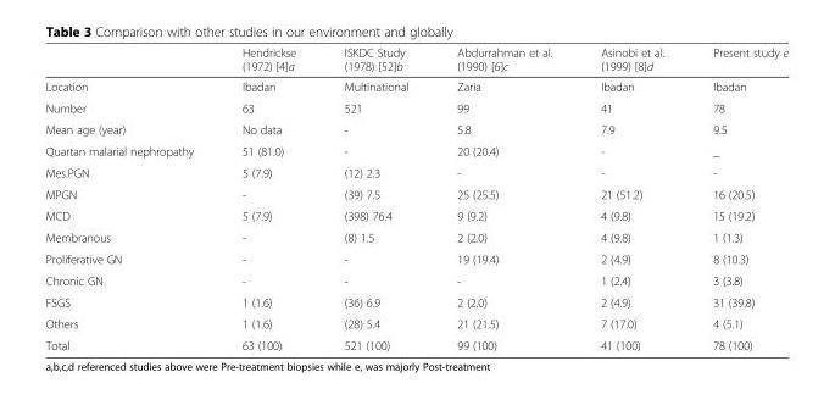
<table><thead><tr><td></td><td>Hendrickse (1972) [4]a</td><td>ISKDC Study (1978) [52]b</td><td>Abdurrahman et al. (1990) [6]c</td><td>Asinobi et al. (1999) [8]d</td><td>Present study e</td></tr></thead><tbody><tr><td>Location</td><td>Ibadan</td><td>Multinational</td><td>Zaria</td><td>Ibadan</td><td>Ibadan</td></tr><tr><td>Number</td><td>63</td><td>521</td><td>99</td><td>41</td><td>78</td></tr><tr><td>Mean age (year)</td><td>No data</td><td>-</td><td>5.8</td><td>7.9</td><td>9.5</td></tr><tr><td>Quartan malarial nephropathy</td><td>51 (81.0)</td><td>-</td><td>20 (20.4)</td><td>-</td><td>_</td></tr><tr><td>Mes.PGN</td><td>5 (7.9)</td><td>(12) 2.3</td><td>-</td><td>-</td><td>-</td></tr><tr><td>MPGN</td><td>-</td><td>(39) 7.5</td><td>25 (25.5)</td><td>21 (51.2)</td><td>16 (20.5)</td></tr><tr><td>MCD</td><td>5 (7.9)</td><td>(398) 76.4</td><td>9 (9.2)</td><td>4 (9.8)</td><td>15 (19.2)</td></tr><tr><td>Membranous</td><td>-</td><td>(8) 1.5</td><td>2 (2.0)</td><td>4 (9.8)</td><td>1 (1.3)</td></tr><tr><td>Proliferative GN</td><td>-</td><td>-</td><td>19 (19.4)</td><td>2 (4.9)</td><td>8 (10.3)</td></tr><tr><td>Chronic GN</td><td>-</td><td>-</td><td>-</td><td>1 (2.4)</td><td>3 (3.8)</td></tr><tr><td>FSGS</td><td>1 (1.6)</td><td>(36) 6.9</td><td>2 (2.0)</td><td>2 (4.9)</td><td>31 (39.8)</td></tr><tr><td>Others</td><td>1 (1.6)</td><td>(28) 5.4</td><td>21 (21.5)</td><td>7 (17.0)</td><td>4 (5.1)</td></tr><tr><td>Total</td><td>63 (100)</td><td>521 (100)</td><td>99 (100)</td><td>41 (100)</td><td>78 (100)</td></tr></tbody></table>